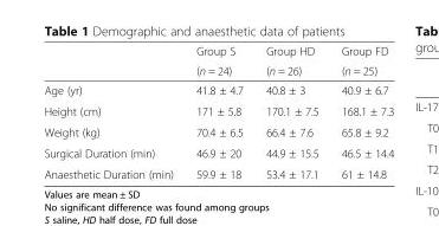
<table><thead><tr><td rowspan="2"></td><td rowspan="2">Group S (n = 24)</td><td rowspan="2">Group HD (n = 26)</td><td rowspan="2">Group FD (n = 25)</td></tr><tr></tr></thead><tbody><tr><td>Age (yr)</td><td>41.8 ± 4.7</td><td>40.8 ± 3</td><td>40.9 ± 6.7</td></tr><tr><td>Height (cm)</td><td>171 ± 5.8</td><td>170.1 ± 7.5</td><td>168.1 ± 7.3</td></tr><tr><td>Weight (kg)</td><td>70.4 ± 6.5</td><td>66.4 ± 7.6</td><td>65.8 ± 9.2</td></tr><tr><td>Surgical Duration (min)</td><td>46.9 ± 20</td><td>44.9 ± 15.5</td><td>46.5 ± 14.4</td></tr><tr><td>Anaesthetic Duration (min)</td><td>59.9 ± 18</td><td>53.4 ± 17.1</td><td>61 ± 14.8</td></tr></tbody></table>